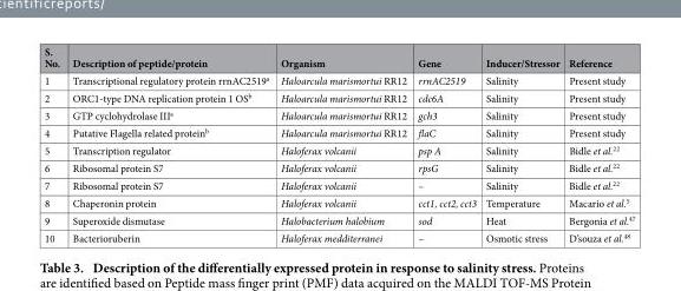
<table><thead><tr><td>S. No.</td><td>Description of peptide/protein</td><td>Organism</td><td>Gene</td><td>Inducer/Stressor</td><td>Reference</td></tr></thead><tbody><tr><td>1</td><td>Transcriptional regulatory protein rrnAC2519<sup>a</sup></td><td>Haloarcula marismortui RR12</td><td>rrnAC2519</td><td>Salinity</td><td>Present study</td></tr><tr><td>2</td><td>ORC1-type DNA replication protein 1 OS<sup>b</sup></td><td>Haloarcula marismortui RR12</td><td>cdc6A</td><td>Salinity</td><td>Present study</td></tr><tr><td>3</td><td>GTP cyclohydrolase III<sup>a</sup></td><td>Haloarcula marismortui RR12</td><td>gch3</td><td>Salinity</td><td>Present study</td></tr><tr><td>4</td><td>Putative Flagella related protein<sup>b</sup></td><td>Haloarcula marismortui RR12</td><td>flaC</td><td>Salinity</td><td>Present study</td></tr><tr><td>5</td><td>Transcription regulator</td><td>Haloferax volcanii</td><td>psp A</td><td>Salinity</td><td>Bidle et al.<sup>22</sup></td></tr><tr><td>6</td><td>Ribosomal protein S7</td><td>Haloferax volcanii</td><td>rpsG</td><td>Salinity</td><td>Bidle et al.<sup>22</sup></td></tr><tr><td>7</td><td>Ribosomal protein S7</td><td>Haloferax volcanii</td><td>–</td><td>Salinity</td><td>Bidle et al.<sup>22</sup></td></tr><tr><td>8</td><td>Chaperonin protein</td><td>Haloferax volcanii</td><td>cct1, cct2, cct3</td><td>Temperature</td><td>Macario et al.<sup>5</sup></td></tr><tr><td>9</td><td>Superoxide dismutase</td><td>Halobacterium halobium</td><td>sod</td><td>Heat</td><td>Bergonia et al.<sup>47</sup></td></tr><tr><td>10</td><td>Bacterioruberin</td><td>Haloferax medditerranei</td><td>–</td><td>Osmotic stress</td><td>D’souza et al.<sup>48</sup></td></tr></tbody></table>